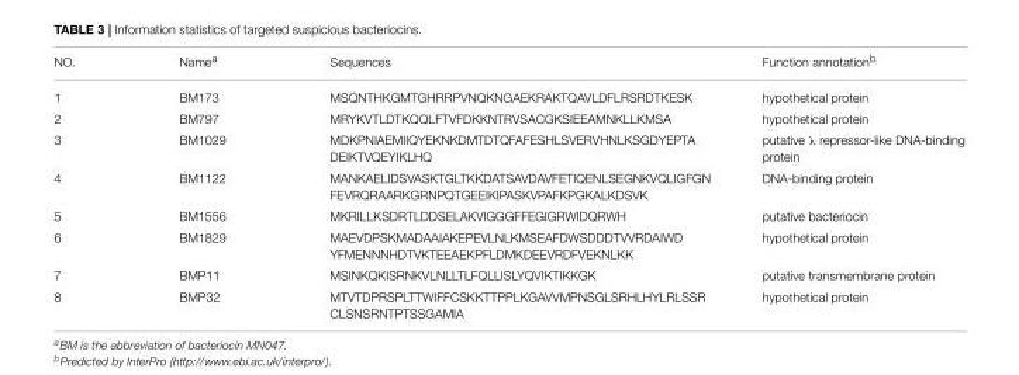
<table><thead><tr><td>NO.</td><td>Name<sup>a</sup></td><td>Sequences</td><td>Function annotation<sup>b</sup></td></tr></thead><tbody><tr><td>1</td><td>BM173</td><td>MSQNTHKGMTGHRRPVNQKNGAEKRAKTQAVLDFLRSRDTKESK</td><td>hypothetical protein</td></tr><tr><td>2</td><td>BM797</td><td>MRYKVTLDTKQQLFTVFDKKNTRVSACGKSIEEAMNKLLKMSA</td><td>hypothetical protein</td></tr><tr><td>3</td><td>BM1029</td><td>MDKPNIAEMIIQYEKNKDMTDTQFAFESHLSVERVHNLKSGDYEPTA DEIKTVQEYIKLHQ</td><td>putative λ repressor-like DNA-binding protein</td></tr><tr><td>4</td><td>BM1122</td><td>MANKAELIDSVASKTGLTKKDATSAVDAVFETIQENLSEGNKVQLIGFGN FEVRQRAARKGRNPQTGEEIKIPASKVPAFKPGKALKDSVK</td><td>DNA-binding protein</td></tr><tr><td>5</td><td>BM1556</td><td>MKRILLKSDRTLDDSELAKVIGGGFFEGIGRWIDQRWH</td><td>putative bacteriocin</td></tr><tr><td>6</td><td>BM1829</td><td>MAEVDPSKMADAAIAKEPEVLNLKMSEAFDWSDDDTVVRDAIWD YFMENNNHDTVKTEEAEKPFLDMKDEEVRDFVEKNLKK</td><td>hypothetical protein</td></tr><tr><td>7</td><td>BMP11</td><td>MSINKQKISRNKVLNLLTLFQLLISLYQVIKTIKKGK</td><td>putative transmembrane protein</td></tr><tr><td>8</td><td>BMP32</td><td>MTVTDPRSPLTTWIFFCSKKTTPPLKGAVVMPNSGLSRHLHYLRLSSR CLSNSRNTPTSSGAMIA</td><td>hypothetical protein</td></tr></tbody></table>